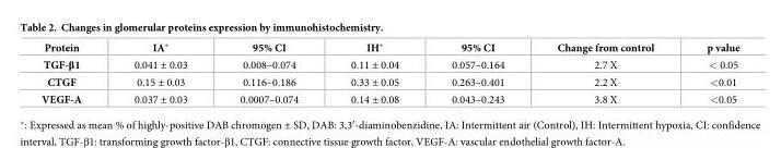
<table><thead><tr><td>Protein</td><td>IA*</td><td>95% CI</td><td>IH*</td><td>95% CI</td><td>Change from control</td><td>p value</td></tr></thead><tbody><tr><td>TGF-β1</td><td>0.041 ± 0.03</td><td>0.008–0.074</td><td>0.11 ± 0.04</td><td>0.057–0.164</td><td>2.7 X</td><td>&lt; 0.05</td></tr><tr><td>CTGF</td><td>0.15 ± 0.03</td><td>0.116–0.186</td><td>0.33 ± 0.05</td><td>0.263–0.401</td><td>2.2 X</td><td>&lt;0.01</td></tr><tr><td>VEGF-A</td><td>0.037 ± 0.03</td><td>0.0007–0.074</td><td>0.14 ± 0.08</td><td>0.043–0.243</td><td>3.8 X</td><td>&lt;0.05</td></tr></tbody></table>